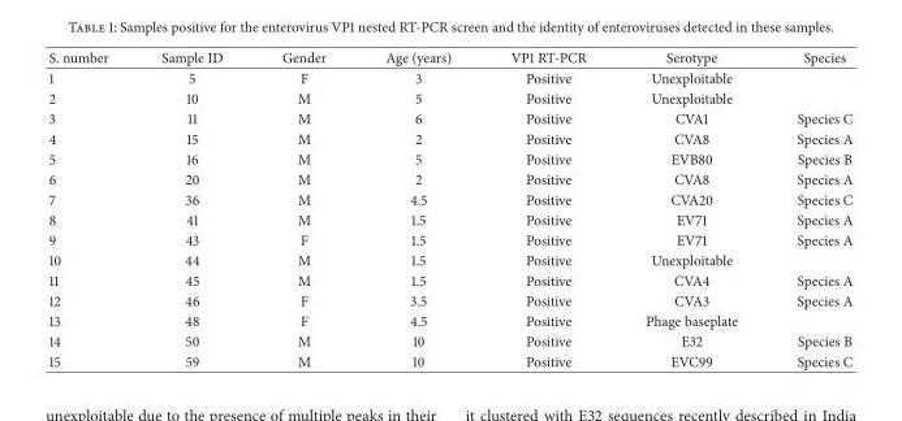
<table><thead><tr><td>S. number</td><td>Sample ID</td><td>Gender</td><td>Age (years)</td><td>VP1 RT-PCR</td><td>Serotype</td><td>Species</td></tr></thead><tbody><tr><td>1</td><td>5</td><td>F</td><td>3</td><td>Positive</td><td>Unexploitable</td><td></td></tr><tr><td>2</td><td>10</td><td>M</td><td>5</td><td>Positive</td><td>Unexploitable</td><td></td></tr><tr><td>3</td><td>11</td><td>M</td><td>6</td><td>Positive</td><td>CVA1</td><td>Species C</td></tr><tr><td>4</td><td>15</td><td>M</td><td>2</td><td>Positive</td><td>CVA8</td><td>Species A</td></tr><tr><td>5</td><td>16</td><td>M</td><td>5</td><td>Positive</td><td>EVB80</td><td>Species B</td></tr><tr><td>6</td><td>20</td><td>M</td><td>2</td><td>Positive</td><td>CVA8</td><td>Species A</td></tr><tr><td>7</td><td>36</td><td>M</td><td>4.5</td><td>Positive</td><td>CVA20</td><td>Species C</td></tr><tr><td>8</td><td>41</td><td>M</td><td>1.5</td><td>Positive</td><td>EV71</td><td>Species A</td></tr><tr><td>9</td><td>43</td><td>F</td><td>1.5</td><td>Positive</td><td>EV71</td><td>Species A</td></tr><tr><td>10</td><td>44</td><td>M</td><td>1.5</td><td>Positive</td><td>Unexploitable</td><td></td></tr><tr><td>11</td><td>45</td><td>M</td><td>1.5</td><td>Positive</td><td>CVA4</td><td>Species A</td></tr><tr><td>12</td><td>46</td><td>F</td><td>3.5</td><td>Positive</td><td>CVA3</td><td>Species A</td></tr><tr><td>13</td><td>48</td><td>F</td><td>4.5</td><td>Positive</td><td>Phage baseplate</td><td></td></tr><tr><td>14</td><td>50</td><td>M</td><td>10</td><td>Positive</td><td>E32</td><td>Species B</td></tr><tr><td>15</td><td>59</td><td>M</td><td>10</td><td>Positive</td><td>EVC99</td><td>Species C</td></tr></tbody></table>